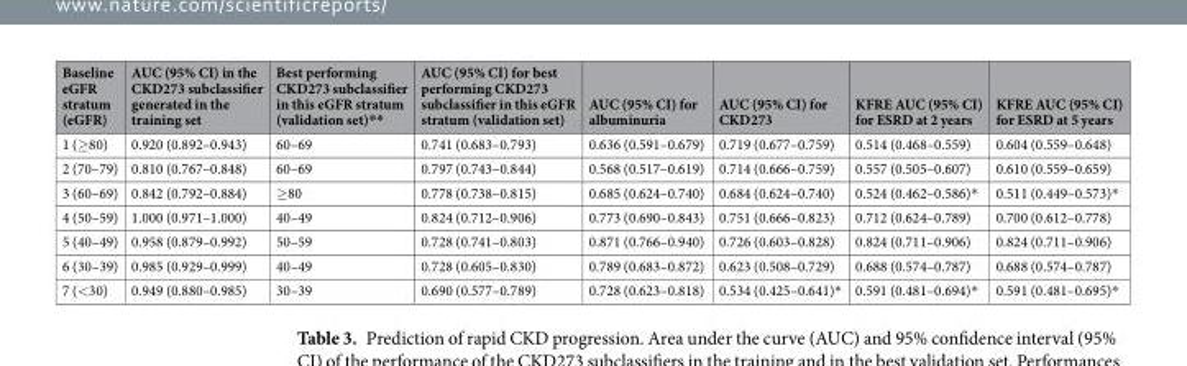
<table><thead><tr><td>Baseline eGFR stratum (eGFR)</td><td>AUC (95% CI) in the CKD273 subclassifier generated in the training set</td><td>Best performing CKD273 subclassifier in this eGFR stratum (validation set)**</td><td>AUC (95% CI) for best performing CKD273 subclassifier in this eGFR stratum (validation set)</td><td>AUC (95% CI) for albuminuria</td><td>AUC (95% CI) for CKD273</td><td>KFRE AUC (95% CI) for ESRD at 2 years</td><td>KFRE AUC (95% CI) for ESRD at 5 years</td></tr></thead><tbody><tr><td>1 (≥80)</td><td>0.920 (0.892–0.943)</td><td>60–69</td><td>0.741 (0.683–0.793)</td><td>0.636 (0.591–0.679)</td><td>0.719 (0.677–0.759)</td><td>0.514 (0.468–0.559)</td><td>0.604 (0.559–0.648)</td></tr><tr><td>2 (70–79)</td><td>0.810 (0.767–0.848)</td><td>60–69</td><td>0.797 (0.743–0.844)</td><td>0.568 (0.517–0.619)</td><td>0.714 (0.666–0.759)</td><td>0.557 (0.505–0.607)</td><td>0.610 (0.559–0.659)</td></tr><tr><td>3 (60–69)</td><td>0.842 (0.792–0.884)</td><td>≥80</td><td>0.778 (0.738–0.815)</td><td>0.685 (0.624–0.740)</td><td>0.684 (0.624–0.740)</td><td>0.524 (0.462–0.586)*</td><td>0.511 (0.449–0.573)*</td></tr><tr><td>4 (50–59)</td><td>1.000 (0.971–1.000)</td><td>40–49</td><td>0.824 (0.712–0.906)</td><td>0.773 (0.690–0.843)</td><td>0.751 (0.666–0.823)</td><td>0.712 (0.624–0.789)</td><td>0.700 (0.612–0.778)</td></tr><tr><td>5 (40–49)</td><td>0.958 (0.879–0.992)</td><td>50–59</td><td>0.728 (0.741–0.803)</td><td>0.871 (0.766–0.940)</td><td>0.726 (0.603–0.828)</td><td>0.824 (0.711–0.906)</td><td>0.824 (0.711–0.906)</td></tr><tr><td>6 (30–39)</td><td>0.985 (0.929–0.999)</td><td>40–49</td><td>0.728 (0.605–0.830)</td><td>0.789 (0.683–0.872)</td><td>0.623 (0.508–0.729)</td><td>0.688 (0.574–0.787)</td><td>0.688 (0.574–0.787)</td></tr><tr><td>7 (&lt;30)</td><td>0.949 (0.880–0.985)</td><td>30–39</td><td>0.690 (0.577–0.789)</td><td>0.728 (0.623–0.818)</td><td>0.534 (0.425–0.641)*</td><td>0.591 (0.481–0.694)*</td><td>0.591 (0.481–0.695)*</td></tr></tbody></table>